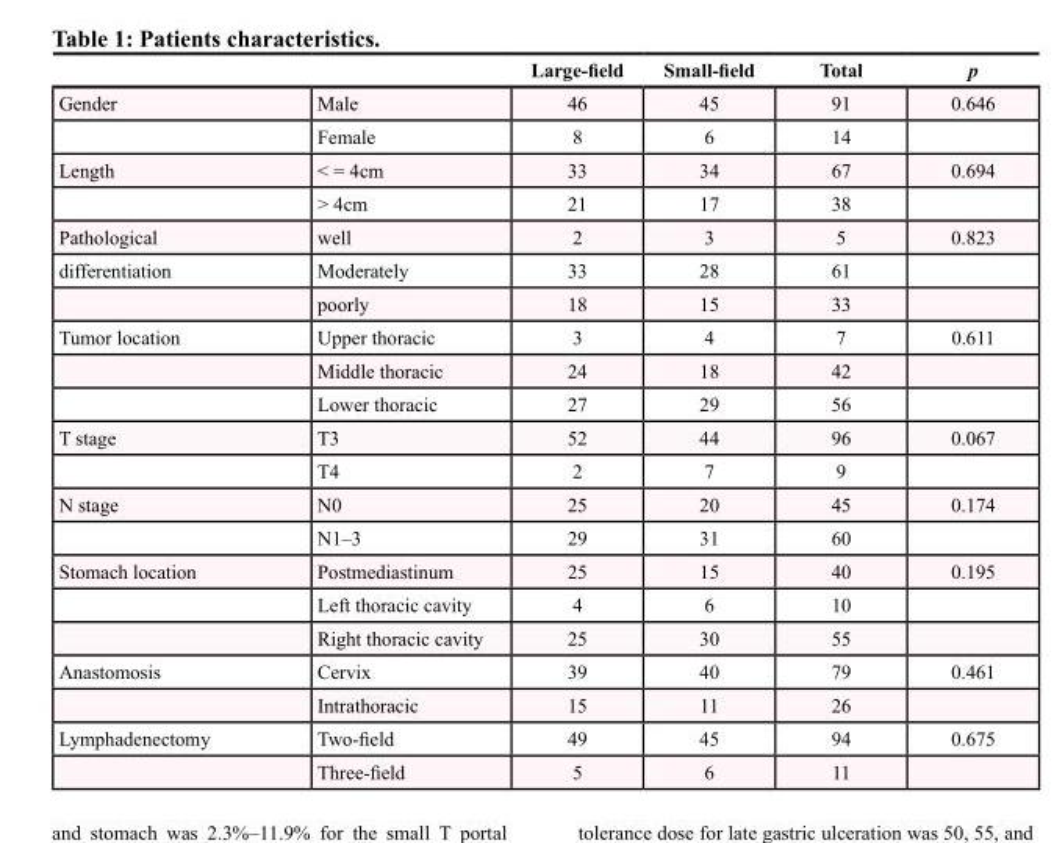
<table><thead><tr><td></td><td></td><td>Large-field</td><td>Small-field</td><td>Total</td><td>p</td></tr></thead><tbody><tr><td rowspan="2">Gender</td><td>Male</td><td>46</td><td>45</td><td>91</td><td>0.646</td></tr><tr><td>Female</td><td>8</td><td>6</td><td>14</td><td></td></tr><tr><td rowspan="2">Length</td><td>&lt; = 4cm</td><td>33</td><td>34</td><td>67</td><td>0.694</td></tr><tr><td>&gt; 4cm</td><td>21</td><td>17</td><td>38</td><td></td></tr><tr><td>Pathological</td><td>well</td><td>2</td><td>3</td><td>5</td><td>0.823</td></tr><tr><td rowspan="2">differentiation</td><td>Moderately</td><td>33</td><td>28</td><td>61</td><td></td></tr><tr><td>poorly</td><td>18</td><td>15</td><td>33</td><td></td></tr><tr><td rowspan="3">Tumor location</td><td>Upper thoracic</td><td>3</td><td>4</td><td>7</td><td>0.611</td></tr><tr><td>Middle thoracic</td><td>24</td><td>18</td><td>42</td><td></td></tr><tr><td>Lower thoracic</td><td>27</td><td>29</td><td>56</td><td></td></tr><tr><td rowspan="2">T stage</td><td>T3</td><td>52</td><td>44</td><td>96</td><td>0.067</td></tr><tr><td>T4</td><td>2</td><td>7</td><td>9</td><td></td></tr><tr><td rowspan="2">N stage</td><td>N0</td><td>25</td><td>20</td><td>45</td><td>0.174</td></tr><tr><td>N1–3</td><td>29</td><td>31</td><td>60</td><td></td></tr><tr><td rowspan="3">Stomach location</td><td>Postmediastinum</td><td>25</td><td>15</td><td>40</td><td>0.195</td></tr><tr><td>Left thoracic cavity</td><td>4</td><td>6</td><td>10</td><td></td></tr><tr><td>Right thoracic cavity</td><td>25</td><td>30</td><td>55</td><td></td></tr><tr><td rowspan="2">Anastomosis</td><td>Cervix</td><td>39</td><td>40</td><td>79</td><td>0.461</td></tr><tr><td>Intrathoracic</td><td>15</td><td>11</td><td>26</td><td></td></tr><tr><td rowspan="2">Lymphadenectomy</td><td>Twofield</td><td>49</td><td>45</td><td>94</td><td>0.675</td></tr><tr><td>Threefield</td><td>5</td><td>6</td><td>11</td><td></td></tr></tbody></table>